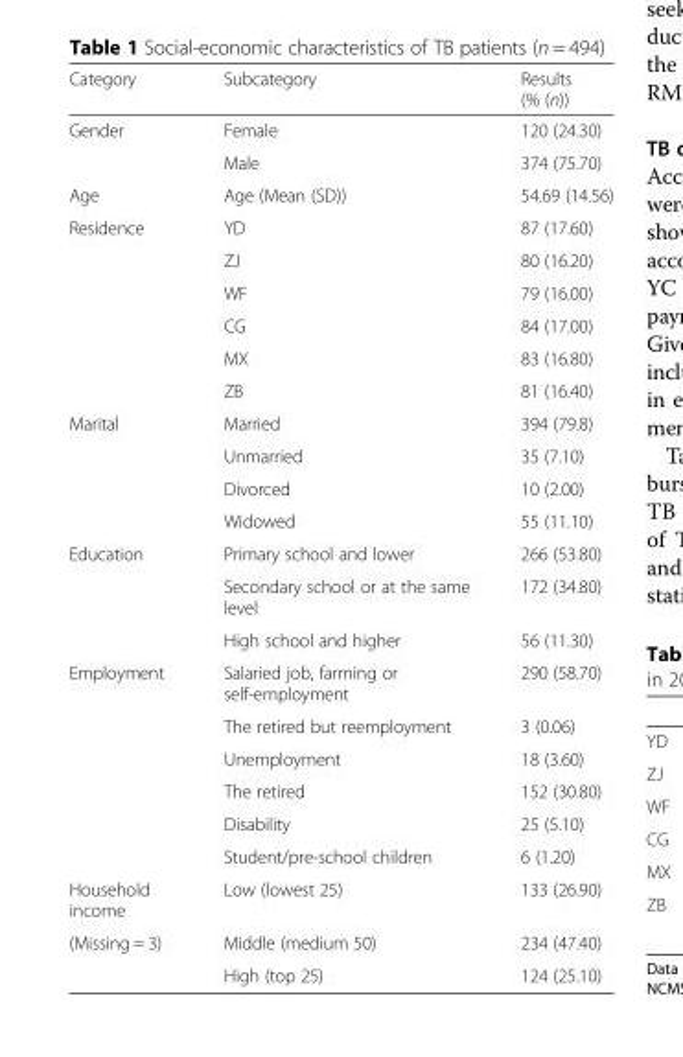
<table><thead><tr><td>Category</td><td>Subcategory</td><td>Results (% (n))</td></tr></thead><tbody><tr><td rowspan="2">Gender</td><td>Female</td><td>120 (24.30)</td></tr><tr><td>Male</td><td>374 (75.70)</td></tr><tr><td>Age</td><td>Age (Mean (SD))</td><td>54.69 (14.56)</td></tr><tr><td rowspan="6">Residence</td><td>YD</td><td>87 (17.60)</td></tr><tr><td>ZJ</td><td>80 (16.20)</td></tr><tr><td>WF</td><td>79 (16.00)</td></tr><tr><td>CG</td><td>84 (17.00)</td></tr><tr><td>MX</td><td>83 (16.80)</td></tr><tr><td>ZB</td><td>81 (16.40)</td></tr><tr><td rowspan="4">Marital</td><td>Married</td><td>394 (79.8)</td></tr><tr><td>Unmarried</td><td>35 (7.10)</td></tr><tr><td>Divorced</td><td>10 (2.00)</td></tr><tr><td>Widowed</td><td>55 (11.10)</td></tr><tr><td rowspan="3">Education</td><td>Primary school and lower</td><td>266 (53.80)</td></tr><tr><td>Secondary school or at the same level</td><td>172 (34.80)</td></tr><tr><td>High school and higher</td><td>56 (11.30)</td></tr><tr><td rowspan="6">Employment</td><td>Salaried job, farming or self-employment</td><td>290 (58.70)</td></tr><tr><td>The retired but reemployment</td><td>3 (0.06)</td></tr><tr><td>Unemployment</td><td>18 (3.60)</td></tr><tr><td>The retired</td><td>152 (30.80)</td></tr><tr><td>Disability</td><td>25 (5.10)</td></tr><tr><td>Student/pre-school children</td><td>6 (1.20)</td></tr><tr><td>Household income</td><td>Low (lowest 25)</td><td>133 (26.90)</td></tr><tr><td rowspan="2">(Missing = 3)</td><td>Middle (medium 50)</td><td>234 (47.40)</td></tr><tr><td>High (top 25)</td><td>124 (25.10)</td></tr></tbody></table>